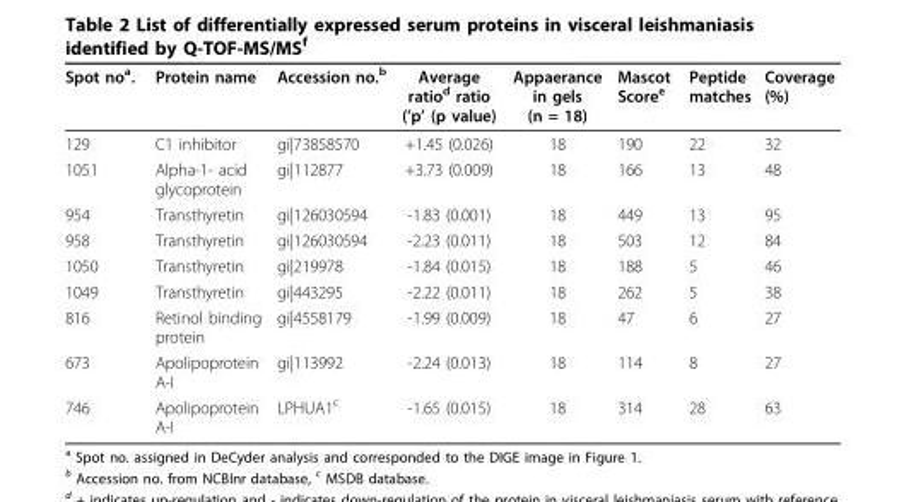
<table><thead><tr><td>Spot no<sup>a</sup>.</td><td>Protein name</td><td>Accession no.<sup>b</sup></td><td>Average ratio<sup>d</sup> ratio (’p’ (p value)</td><td>Appaerance in gels (n = 18)</td><td>Mascot Score<sup>e</sup></td><td>Peptide matches</td><td>Coverage (%)</td></tr></thead><tbody><tr><td>129</td><td>C1 inhibitor</td><td>gi|73858570</td><td>+1.45 (0.026)</td><td>18</td><td>190</td><td>22</td><td>32</td></tr><tr><td>1051</td><td>Alpha-1- acid glycoprotein</td><td>gi|112877</td><td>+3.73 (0.009)</td><td>18</td><td>166</td><td>13</td><td>48</td></tr><tr><td>954</td><td>Transthyretin</td><td>gi|126030594</td><td>-1.83 (0.001)</td><td>18</td><td>449</td><td>13</td><td>95</td></tr><tr><td>958</td><td>Transthyretin</td><td>gi|126030594</td><td>-2.23 (0.011)</td><td>18</td><td>503</td><td>12</td><td>84</td></tr><tr><td>1050</td><td>Transthyretin</td><td>gi|219978</td><td>-1.84 (0.015)</td><td>18</td><td>188</td><td>5</td><td>46</td></tr><tr><td>1049</td><td>Transthyretin</td><td>gi|443295</td><td>-2.22 (0.011)</td><td>18</td><td>262</td><td>5</td><td>38</td></tr><tr><td>816</td><td>Retinol binding protein</td><td>gi|4558179</td><td>-1.99 (0.009)</td><td>18</td><td>47</td><td>6</td><td>27</td></tr><tr><td>673</td><td>Apolipoprotein A-I</td><td>gi|113992</td><td>-2.24 (0.013)</td><td>18</td><td>114</td><td>8</td><td>27</td></tr><tr><td>746</td><td>Apolipoprotein A-I</td><td>LPHUA1<sup>c</sup></td><td>-1.65 (0.015)</td><td>18</td><td>314</td><td>28</td><td>63</td></tr></tbody></table>